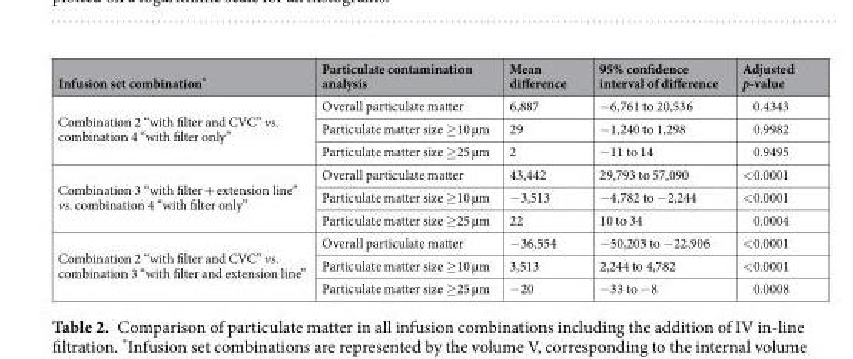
<table><thead><tr><td>Infusion set combination*</td><td>Particulate contamination analysis</td><td>Mean difference</td><td>95% confidence interval of difference</td><td>Adjusted p-value</td></tr></thead><tbody><tr><td rowspan="3">Combination 2 “with filter and CVC” vs. combination 4 “with filter only”</td><td>Overall particulate matter</td><td>6,887</td><td>−6,761 to 20,536</td><td>0.4343</td></tr><tr><td>Particulate matter size ≥10 µm</td><td>29</td><td>−1,240 to 1,298</td><td>0.9982</td></tr><tr><td>Particulate matter size ≥25 µm</td><td>2</td><td>−11 to 14</td><td>0.9495</td></tr><tr><td rowspan="3">Combination 3 “with filter + extension line” vs. combination 4 “with filter only”</td><td>Overall particulate matter</td><td>43,442</td><td>29,793 to 57,090</td><td>&lt;0.0001</td></tr><tr><td>Particulate matter size ≥10 µm</td><td>−3,513</td><td>−4,782 to −2,244</td><td>&lt;0.0001</td></tr><tr><td>Particulate matter size ≥25 µm</td><td>22</td><td>10 to 34</td><td>0.0004</td></tr><tr><td rowspan="3">Combination 2 “with filter and CVC” vs. combination 3 “with filter and extension line”</td><td>Overall particulate matter</td><td>−36,554</td><td>−50,203 to −22,906</td><td>&lt;0.0001</td></tr><tr><td>Particulate matter size ≥10 µm</td><td>3,513</td><td>2,244 to 4,782</td><td>&lt;0.0001</td></tr><tr><td>Particulate matter size ≥25 µm</td><td>−20</td><td>−33 to −8</td><td>0.0008</td></tr></tbody></table>